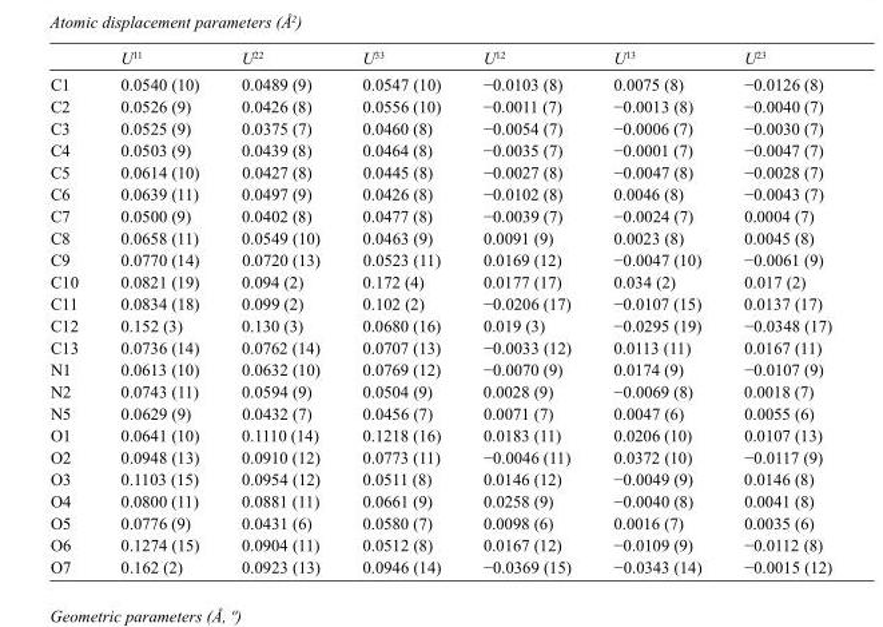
<table><thead><tr><td></td><td>U<sup>11</sup></td><td>U<sup>22</sup></td><td>U<sup>33</sup></td><td>U<sup>12</sup></td><td>U<sup>13</sup></td><td>U<sup>23</sup></td></tr></thead><tbody><tr><td>C1</td><td>0.0540 (10)</td><td>0.0489 (9)</td><td>0.0547 (10)</td><td>−0.0103 (8)</td><td>0.0075 (8)</td><td>−0.0126 (8)</td></tr><tr><td>C2</td><td>0.0526 (9)</td><td>0.0426 (8)</td><td>0.0556 (10)</td><td>−0.0011 (7)</td><td>−0.0013 (8)</td><td>−0.0040 (7)</td></tr><tr><td>C3</td><td>0.0525 (9)</td><td>0.0375 (7)</td><td>0.0460 (8)</td><td>−0.0054 (7)</td><td>−0.0006 (7)</td><td>−0.0030 (7)</td></tr><tr><td>C4</td><td>0.0503 (9)</td><td>0.0439 (8)</td><td>0.0464 (8)</td><td>−0.0035 (7)</td><td>−0.0001 (7)</td><td>−0.0047 (7)</td></tr><tr><td>C5</td><td>0.0614 (10)</td><td>0.0427 (8)</td><td>0.0445 (8)</td><td>−0.0027 (8)</td><td>−0.0047 (8)</td><td>−0.0028 (7)</td></tr><tr><td>C6</td><td>0.0639 (11)</td><td>0.0497 (9)</td><td>0.0426 (8)</td><td>−0.0102 (8)</td><td>0.0046 (8)</td><td>−0.0043 (7)</td></tr><tr><td>C7</td><td>0.0500 (9)</td><td>0.0402 (8)</td><td>0.0477 (8)</td><td>−0.0039 (7)</td><td>−0.0024 (7)</td><td>0.0004 (7)</td></tr><tr><td>C8</td><td>0.0658 (11)</td><td>0.0549 (10)</td><td>0.0463 (9)</td><td>0.0091 (9)</td><td>0.0023 (8)</td><td>0.0045 (8)</td></tr><tr><td>C9</td><td>0.0770 (14)</td><td>0.0720 (13)</td><td>0.0523 (11)</td><td>0.0169 (12)</td><td>−0.0047 (10)</td><td>−0.0061 (9)</td></tr><tr><td>C10</td><td>0.0821 (19)</td><td>0.094 (2)</td><td>0.172 (4)</td><td>0.0177 (17)</td><td>0.034 (2)</td><td>0.017 (2)</td></tr><tr><td>C11</td><td>0.0834 (18)</td><td>0.099 (2)</td><td>0.102 (2)</td><td>−0.0206 (17)</td><td>−0.0107 (15)</td><td>0.0137 (17)</td></tr><tr><td>C12</td><td>0.152 (3)</td><td>0.130 (3)</td><td>0.0680 (16)</td><td>0.019 (3)</td><td>−0.0295 (19)</td><td>−0.0348 (17)</td></tr><tr><td>C13</td><td>0.0736 (14)</td><td>0.0762 (14)</td><td>0.0707 (13)</td><td>−0.0033 (12)</td><td>0.0113 (11)</td><td>0.0167 (11)</td></tr><tr><td>N1</td><td>0.0613 (10)</td><td>0.0632 (10)</td><td>0.0769 (12)</td><td>−0.0070 (9)</td><td>0.0174 (9)</td><td>−0.0107 (9)</td></tr><tr><td>N2</td><td>0.0743 (11)</td><td>0.0594 (9)</td><td>0.0504 (9)</td><td>0.0028 (9)</td><td>−0.0069 (8)</td><td>0.0018 (7)</td></tr><tr><td>N5</td><td>0.0629 (9)</td><td>0.0432 (7)</td><td>0.0456 (7)</td><td>0.0071 (7)</td><td>0.0047 (6)</td><td>0.0055 (6)</td></tr><tr><td>O1</td><td>0.0641 (10)</td><td>0.1110 (14)</td><td>0.1218 (16)</td><td>0.0183 (11)</td><td>0.0206 (10)</td><td>0.0107 (13)</td></tr><tr><td>O2</td><td>0.0948 (13)</td><td>0.0910 (12)</td><td>0.0773 (11)</td><td>−0.0046 (11)</td><td>0.0372 (10)</td><td>−0.0117 (9)</td></tr><tr><td>O3</td><td>0.1103 (15)</td><td>0.0954 (12)</td><td>0.0511 (8)</td><td>0.0146 (12)</td><td>−0.0049 (9)</td><td>0.0146 (8)</td></tr><tr><td>O4</td><td>0.0800 (11)</td><td>0.0881 (11)</td><td>0.0661 (9)</td><td>0.0258 (9)</td><td>−0.0040 (8)</td><td>0.0041 (8)</td></tr><tr><td>O5</td><td>0.0776 (9)</td><td>0.0431 (6)</td><td>0.0580 (7)</td><td>0.0098 (6)</td><td>0.0016 (7)</td><td>0.0035 (6)</td></tr><tr><td>O6</td><td>0.1274 (15)</td><td>0.0904 (11)</td><td>0.0512 (8)</td><td>0.0167 (12)</td><td>−0.0109 (9)</td><td>−0.0112 (8)</td></tr><tr><td>O7</td><td>0.162 (2)</td><td>0.0923 (13)</td><td>0.0946 (14)</td><td>−0.0369 (15)</td><td>−0.0343 (14)</td><td>−0.0015 (12)</td></tr></tbody></table>